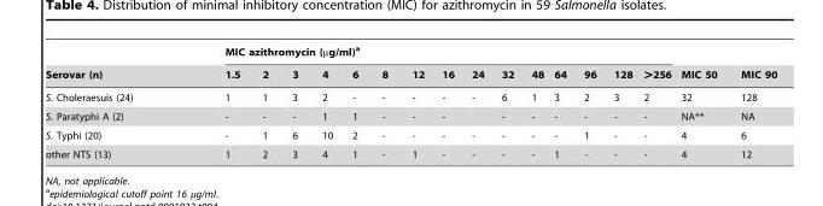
<table><thead><tr><td rowspan="2">Serovar (n)</td><td colspan="15">MIC azithromycin (µg/ml)<sup>a</sup></td><td rowspan="2">MIC 50</td><td rowspan="2">MIC 90</td></tr><tr><td>1.5</td><td>2</td><td>3</td><td>4</td><td>6</td><td>8</td><td>12</td><td>16</td><td>24</td><td>32</td><td>48</td><td>64</td><td>96</td><td>128</td><td>&gt;256</td></tr></thead><tbody><tr><td>S. Choleraesuis (24)</td><td>1</td><td>1</td><td>3</td><td>2</td><td>-</td><td>-</td><td>-</td><td>-</td><td>-</td><td>6</td><td>1</td><td>3</td><td>2</td><td>3</td><td>2</td><td>32</td><td>128</td></tr><tr><td>S. Paratyphi A (2)</td><td>-</td><td>-</td><td>-</td><td>1</td><td>1</td><td>-</td><td>-</td><td>-</td><td></td><td>-</td><td>-</td><td>-</td><td>-</td><td>-</td><td>-</td><td>NA**</td><td>NA</td></tr><tr><td>S. Typhi (20)</td><td>-</td><td>1</td><td>6</td><td>10</td><td>2</td><td>-</td><td>-</td><td>-</td><td>-</td><td>-</td><td>-</td><td>-</td><td>1</td><td>-</td><td>-</td><td>4</td><td>6</td></tr><tr><td>other NTS (13)</td><td>1</td><td>2</td><td>3</td><td>4</td><td>1</td><td>-</td><td>1</td><td>-</td><td>-</td><td>-</td><td>-</td><td>1</td><td>-</td><td>-</td><td>-</td><td>4</td><td>12</td></tr></tbody></table>